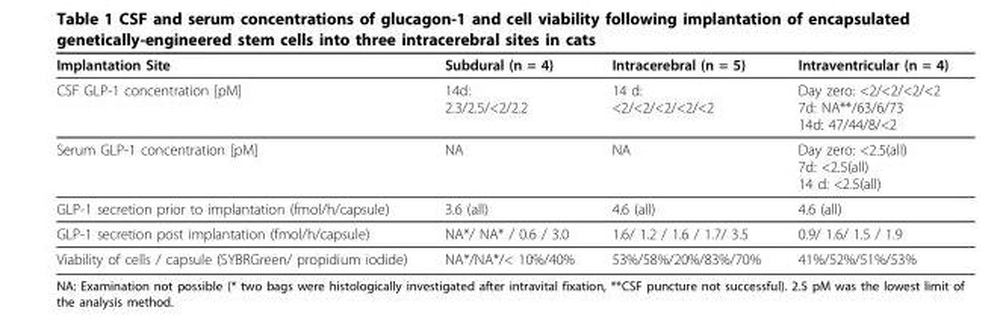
<table><thead><tr><td>Implantation Site</td><td>Subdural (n = 4)</td><td>Intracerebral (n = 5)</td><td>Intraventricular (n = 4)</td></tr></thead><tbody><tr><td>CSF GLP-1 concentration [pM]</td><td>14d: 2.3/2.5/&lt;2/2.2</td><td>14 d: &lt;2/&lt;2/&lt;2/&lt;2/&lt;2</td><td>Day zero: &lt;2/&lt;2/&lt;2/&lt;2 7d: NA**/63/6/73 14d: 47/44/8/&lt;2</td></tr><tr><td>Serum GLP-1 concentration [pM]</td><td>NA</td><td>NA</td><td>Day zero: &lt;2.5(all) 7d: &lt;2.5(all) 14 d: &lt;2.5(all)</td></tr><tr><td>GLP-1 secretion prior to implantation (fmol/h/capsule)</td><td>3.6 (all)</td><td>4.6 (all)</td><td>4.6 (all)</td></tr><tr><td>GLP-1 secretion post implantation (fmol/h/capsule)</td><td>NA*/ NA* / 0.6 / 3.0</td><td>1.6/ 1.2 / 1.6 / 1.7/ 3.5</td><td>0.9/ 1.6/ 1.5 / 1.9</td></tr><tr><td>Viability of cells / capsule (SYBRGreen/ propidium iodide)</td><td>NA*/NA*/&lt; 10%/40%</td><td>53%/58%/20%/83%/70%</td><td>41%/52%/51%/53%</td></tr></tbody></table>